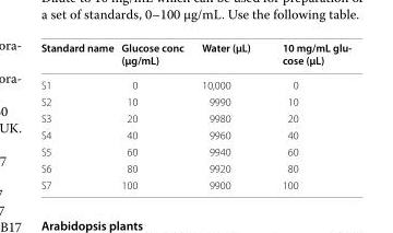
<table><thead><tr><td>Standard name</td><td>Glucose conc (µg/mL)</td><td>Water (µL)</td><td>10 mg/mL glu- cose (µL)</td></tr></thead><tbody><tr><td>S1</td><td>0</td><td>10,000</td><td>0</td></tr><tr><td>S2</td><td>10</td><td>9990</td><td>10</td></tr><tr><td>S3</td><td>20</td><td>9980</td><td>20</td></tr><tr><td>S4</td><td>40</td><td>9960</td><td>40</td></tr><tr><td>S5</td><td>60</td><td>9940</td><td>60</td></tr><tr><td>S6</td><td>80</td><td>9920</td><td>80</td></tr><tr><td>S7</td><td>100</td><td>9900</td><td>100</td></tr></tbody></table>